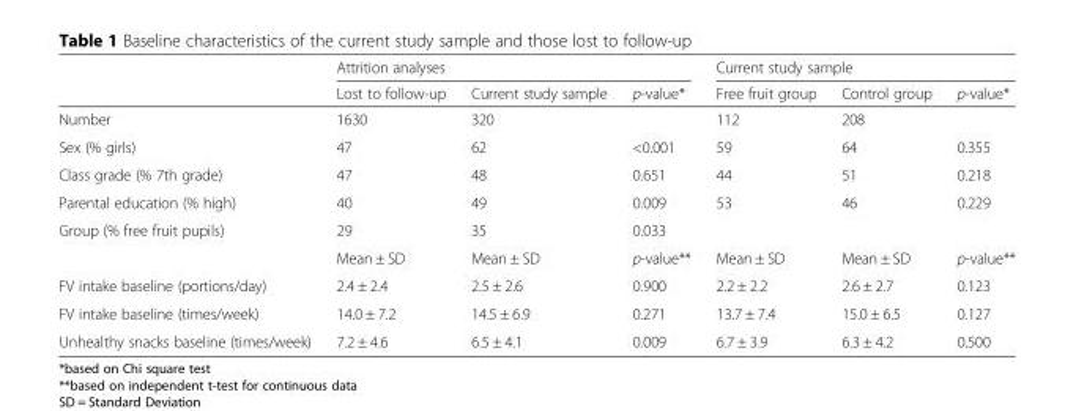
<table><thead><tr><td rowspan="2"></td><td colspan="3">Attrition analyses</td><td colspan="3">Current study sample</td></tr><tr><td>Lost to follow-up</td><td>Current study sample</td><td>p-value*</td><td>Free fruit group</td><td>Control group</td><td>p-value*</td></tr></thead><tbody><tr><td>Number</td><td>1630</td><td>320</td><td></td><td>112</td><td>208</td><td></td></tr><tr><td>Sex (% girls)</td><td>47</td><td>62</td><td>&lt;0.001</td><td>59</td><td>64</td><td>0.355</td></tr><tr><td>Class grade (% 7th grade)</td><td>47</td><td>48</td><td>0.651</td><td>44</td><td>51</td><td>0.218</td></tr><tr><td>Parental education (% high)</td><td>40</td><td>49</td><td>0.009</td><td>53</td><td>46</td><td>0.229</td></tr><tr><td rowspan="2">Group (% free fruit pupils)</td><td>29</td><td>35</td><td>0.033</td><td></td><td></td><td></td></tr><tr><td>Mean ± SD</td><td>Mean ± SD</td><td>p-value**</td><td>Mean ± SD</td><td>Mean ± SD</td><td>p-value**</td></tr><tr><td>FV intake baseline (portions/day)</td><td>2.4 ± 2.4</td><td>2.5 ± 2.6</td><td>0.900</td><td>2.2 ± 2.2</td><td>2.6 ± 2.7</td><td>0.123</td></tr><tr><td>FV intake baseline (times/week)</td><td>14.0 ± 7.2</td><td>14.5 ± 6.9</td><td>0.271</td><td>13.7 ± 7.4</td><td>15.0 ± 6.5</td><td>0.127</td></tr><tr><td>Unhealthy snacks baseline (times/week)</td><td>7.2 ± 4.6</td><td>6.5 ± 4.1</td><td>0.009</td><td>6.7 ± 3.9</td><td>6.3 ± 4.2</td><td>0.500</td></tr></tbody></table>